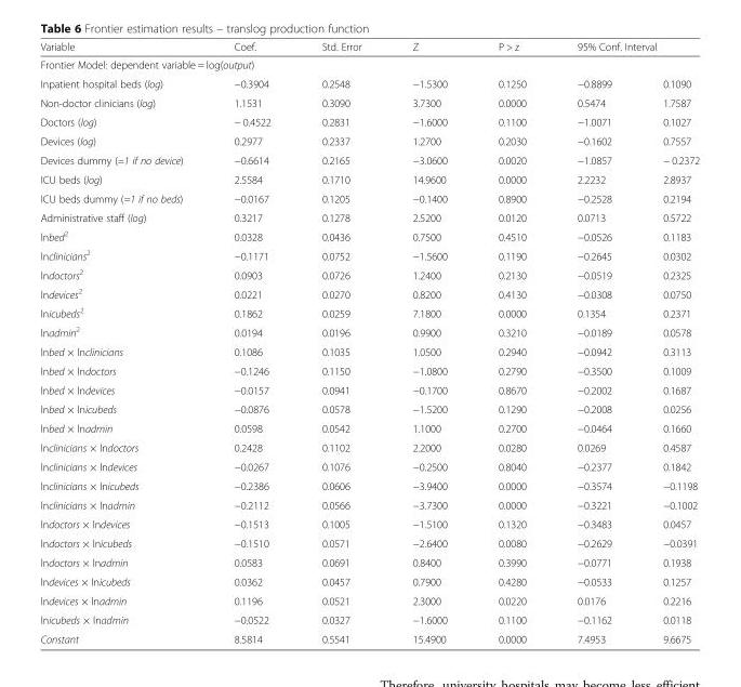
<table><thead><tr><td>Variable</td><td>Coef.</td><td>Std. Error</td><td>Z</td><td>P &gt; z</td><td colspan="2">95% Conf. Interval</td></tr><tr><td colspan="7">Frontier Model: dependent variable = log(output)</td></tr><tr><td>Inpatient hospital beds (log)</td><td>−0.3904</td><td>0.2548</td><td>−1.5300</td><td>0.1250</td><td>−0.8899</td><td>0.1090</td></tr></thead><tbody><tr><td>Non-doctor clinicians (log)</td><td>1.1531</td><td>0.3090</td><td>3.7300</td><td>0.0000</td><td>0.5474</td><td>1.7587</td></tr><tr><td>Doctors (log)</td><td>− 0.4522</td><td>0.2831</td><td>−1.6000</td><td>0.1100</td><td>−1.0071</td><td>0.1027</td></tr><tr><td>Devices (log)</td><td>0.2977</td><td>0.2337</td><td>1.2700</td><td>0.2030</td><td>−0.1602</td><td>0.7557</td></tr><tr><td>Devices dummy (=1 if no device)</td><td>−0.6614</td><td>0.2165</td><td>−3.0600</td><td>0.0020</td><td>−1.0857</td><td>− 0.2372</td></tr><tr><td>ICU beds (log)</td><td>2.5584</td><td>0.1710</td><td>14.9600</td><td>0.0000</td><td>2.2232</td><td>2.8937</td></tr><tr><td>ICU beds dummy (=1 if no beds)</td><td>−0.0167</td><td>0.1205</td><td>−0.1400</td><td>0.8900</td><td>−0.2528</td><td>0.2194</td></tr><tr><td>Administrative staff (log)</td><td>0.3217</td><td>0.1278</td><td>2.5200</td><td>0.0120</td><td>0.0713</td><td>0.5722</td></tr><tr><td>lnbed<sup>2</sup></td><td>0.0328</td><td>0.0436</td><td>0.7500</td><td>0.4510</td><td>−0.0526</td><td>0.1183</td></tr><tr><td>lnclinicians<sup>2</sup></td><td>−0.1171</td><td>0.0752</td><td>−1.5600</td><td>0.1190</td><td>−0.2645</td><td>0.0302</td></tr><tr><td>lndoctors<sup>2</sup></td><td>0.0903</td><td>0.0726</td><td>1.2400</td><td>0.2130</td><td>−0.0519</td><td>0.2325</td></tr><tr><td>lndevices<sup>2</sup></td><td>0.0221</td><td>0.0270</td><td>0.8200</td><td>0.4130</td><td>−0.0308</td><td>0.0750</td></tr><tr><td>lnicubeds<sup>2</sup></td><td>0.1862</td><td>0.0259</td><td>7.1800</td><td>0.0000</td><td>0.1354</td><td>0.2371</td></tr><tr><td>lnadmin<sup>2</sup></td><td>0.0194</td><td>0.0196</td><td>0.9900</td><td>0.3210</td><td>−0.0189</td><td>0.0578</td></tr><tr><td>lnbed × lnclinicians</td><td>0.1086</td><td>0.1035</td><td>1.0500</td><td>0.2940</td><td>−0.0942</td><td>0.3113</td></tr><tr><td>lnbed × lndoctors</td><td>−0.1246</td><td>0.1150</td><td>−1.0800</td><td>0.2790</td><td>−0.3500</td><td>0.1009</td></tr><tr><td>lnbed × lndevices</td><td>−0.0157</td><td>0.0941</td><td>−0.1700</td><td>0.8670</td><td>−0.2002</td><td>0.1687</td></tr><tr><td>lnbed × lnicubeds</td><td>−0.0876</td><td>0.0578</td><td>−1.5200</td><td>0.1290</td><td>−0.2008</td><td>0.0256</td></tr><tr><td>lnbed × lnadmin</td><td>0.0598</td><td>0.0542</td><td>1.1000</td><td>0.2700</td><td>−0.0464</td><td>0.1660</td></tr><tr><td>lnclinicians × lndoctors</td><td>0.2428</td><td>0.1102</td><td>2.2000</td><td>0.0280</td><td>0.0269</td><td>0.4587</td></tr><tr><td>lnclinicians × lndevices</td><td>−0.0267</td><td>0.1076</td><td>−0.2500</td><td>0.8040</td><td>−0.2377</td><td>0.1842</td></tr><tr><td>lnclinicians × lnicubeds</td><td>−0.2386</td><td>0.0606</td><td>−3.9400</td><td>0.0000</td><td>−0.3574</td><td>−0.1198</td></tr><tr><td>lnclinicians × lnadmin</td><td>−0.2112</td><td>0.0566</td><td>−3.7300</td><td>0.0000</td><td>−0.3221</td><td>−0.1002</td></tr><tr><td>lndoctors × lndevices</td><td>−0.1513</td><td>0.1005</td><td>−1.5100</td><td>0.1320</td><td>−0.3483</td><td>0.0457</td></tr><tr><td>lndoctors × lnicubeds</td><td>−0.1510</td><td>0.0571</td><td>−2.6400</td><td>0.0080</td><td>−0.2629</td><td>−0.0391</td></tr><tr><td>lndoctors × lnadmin</td><td>0.0583</td><td>0.0691</td><td>0.8400</td><td>0.3990</td><td>−0.0771</td><td>0.1938</td></tr><tr><td>lndevices × lnicubeds</td><td>0.0362</td><td>0.0457</td><td>0.7900</td><td>0.4280</td><td>−0.0533</td><td>0.1257</td></tr><tr><td>lndevices × lnadmin</td><td>0.1196</td><td>0.0521</td><td>2.3000</td><td>0.0220</td><td>0.0176</td><td>0.2216</td></tr><tr><td>lnicubeds × lnadmin</td><td>−0.0522</td><td>0.0327</td><td>−1.6000</td><td>0.1100</td><td>−0.1162</td><td>0.0118</td></tr><tr><td>Constant</td><td>8.5814</td><td>0.5541</td><td>15.4900</td><td>0.0000</td><td>7.4953</td><td>9.6675</td></tr></tbody></table>